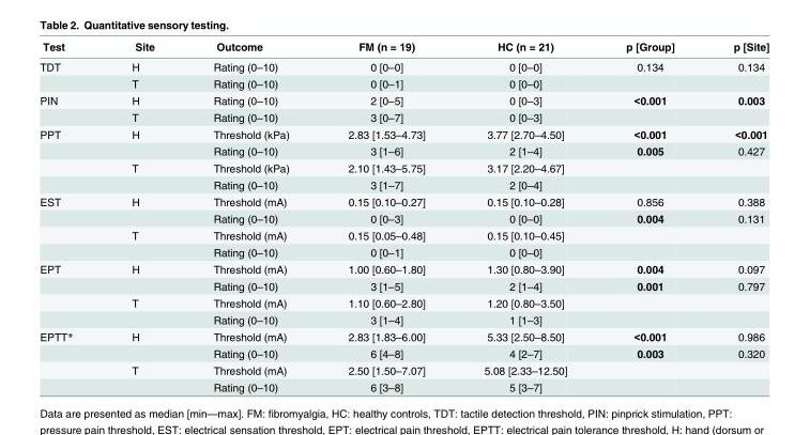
<table><thead><tr><td>Test</td><td>Site</td><td>Outcome</td><td>FM (n = 19)</td><td>HC (n = 21)</td><td>p [Group]</td><td>p [Site]</td></tr></thead><tbody><tr><td rowspan="2">TDT</td><td>H</td><td>Rating (0–10)</td><td>0 [0–0]</td><td>0 [0–0]</td><td>0.134</td><td>0.134</td></tr><tr><td>T</td><td>Rating (0–10)</td><td>0 [0–1]</td><td>0 [0–0]</td><td></td><td></td></tr><tr><td rowspan="2">PIN</td><td>H</td><td>Rating (0–10)</td><td>2 [0–5]</td><td>0 [0–3]</td><td>&lt;0.001</td><td>0.003</td></tr><tr><td>T</td><td>Rating (0–10)</td><td>3 [0–7]</td><td>0 [0–3]</td><td></td><td></td></tr><tr><td rowspan="4">PPT</td><td>H</td><td>Threshold (kPa)</td><td>2.83 [1.53–4.73]</td><td>3.77 [2.70–4.50]</td><td>&lt;0.001</td><td>&lt;0.001</td></tr><tr><td></td><td>Rating (0–10)</td><td>3 [1–6]</td><td>2 [1–4]</td><td>0.005</td><td>0.427</td></tr><tr><td>T</td><td>Threshold (kPa)</td><td>2.10 [1.43–5.75]</td><td>3.17 [2.20–4.67]</td><td></td><td></td></tr><tr><td></td><td>Rating (0–10)</td><td>3 [1–7]</td><td>2 [0–4]</td><td></td><td></td></tr><tr><td rowspan="4">EST</td><td>H</td><td>Threshold (mA)</td><td>0.15 [0.10–0.27]</td><td>0.15 [0.10–0.28]</td><td>0.856</td><td>0.388</td></tr><tr><td></td><td>Rating (0–10)</td><td>0 [0–3]</td><td>0 [0–0]</td><td>0.004</td><td>0.131</td></tr><tr><td>T</td><td>Threshold (mA)</td><td>0.15 [0.05–0.48]</td><td>0.15 [0.10–0.45]</td><td></td><td></td></tr><tr><td></td><td>Rating (0–10)</td><td>0 [0–1]</td><td>0 [0–0]</td><td></td><td></td></tr><tr><td rowspan="4">EPT</td><td>H</td><td>Threshold (mA)</td><td>1.00 [0.60–1.80]</td><td>1.30 [0.80–3.90]</td><td>0.004</td><td>0.097</td></tr><tr><td></td><td>Rating (0–10)</td><td>3 [1–5]</td><td>2 [1–4]</td><td>0.001</td><td>0.797</td></tr><tr><td>T</td><td>Threshold (mA)</td><td>1.10 [0.60–2.80]</td><td>1.20 [0.80–3.50]</td><td></td><td></td></tr><tr><td></td><td>Rating (0–10)</td><td>3 [1–4]</td><td>1 [1–3]</td><td></td><td></td></tr><tr><td rowspan="4">EPTT*</td><td>H</td><td>Threshold (mA)</td><td>2.83 [1.83–6.00]</td><td>5.33 [2.50–8.50]</td><td>&lt;0.001</td><td>0.986</td></tr><tr><td></td><td>Rating (0–10)</td><td>6 [4–8]</td><td>4 [2–7]</td><td>0.003</td><td>0.320</td></tr><tr><td>T</td><td>Threshold (mA)</td><td>2.50 [1.50–7.07]</td><td>5.08 [2.33–12.50]</td><td></td><td></td></tr><tr><td></td><td>Rating (0–10)</td><td>6 [3–8]</td><td>5 [3–7]</td><td></td><td></td></tr></tbody></table>